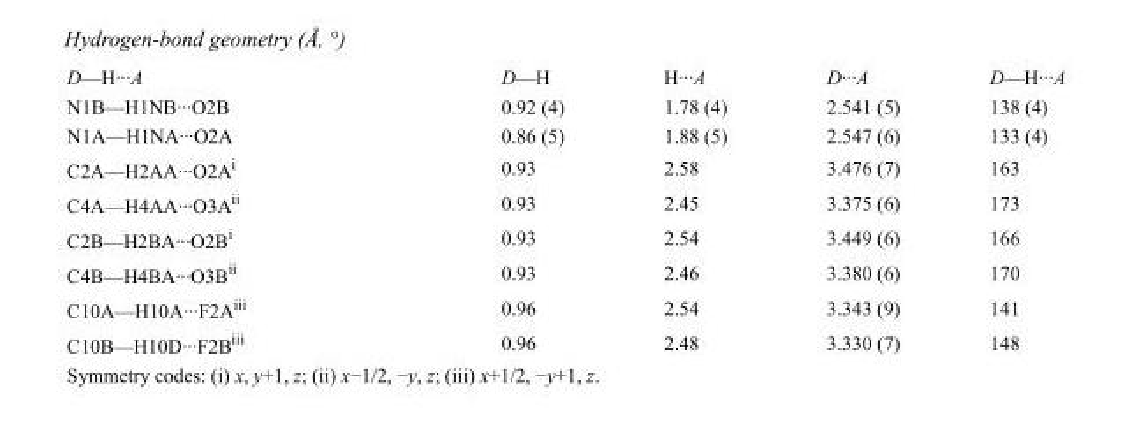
<table><tbody><tr><td>D—H···A</td><td>D—H</td><td>H···A</td><td>D···A</td><td>D—H···A</td></tr><tr><td>N1B—H1NB···O2B</td><td>0.92 (4)</td><td>1.78 (4)</td><td>2.541 (5)</td><td>138 (4)</td></tr><tr><td>N1A—H1NA···O2A</td><td>0.86 (5)</td><td>1.88 (5)</td><td>2.547 (6)</td><td>133 (4)</td></tr><tr><td>C2A—H2AA···O2A<sup>i</sup></td><td>0.93</td><td>2.58</td><td>3.476 (7)</td><td>163</td></tr><tr><td>C4A—H4AA···O3A<sup>ii</sup></td><td>0.93</td><td>2.45</td><td>3.375 (6)</td><td>173</td></tr><tr><td>C2B—H2BA···O2B<sup>i</sup></td><td>0.93</td><td>2.54</td><td>3.449 (6)</td><td>166</td></tr><tr><td>C4B—H4BA···O3B<sup>ii</sup></td><td>0.93</td><td>2.46</td><td>3.380 (6)</td><td>170</td></tr><tr><td>C10A—H10A···F2A<sup>iii</sup></td><td>0.96</td><td>2.54</td><td>3.343 (9)</td><td>141</td></tr><tr><td>C10B—H10D···F2B<sup>iii</sup></td><td>0.96</td><td>2.48</td><td>3.330 (7)</td><td>148</td></tr></tbody></table>